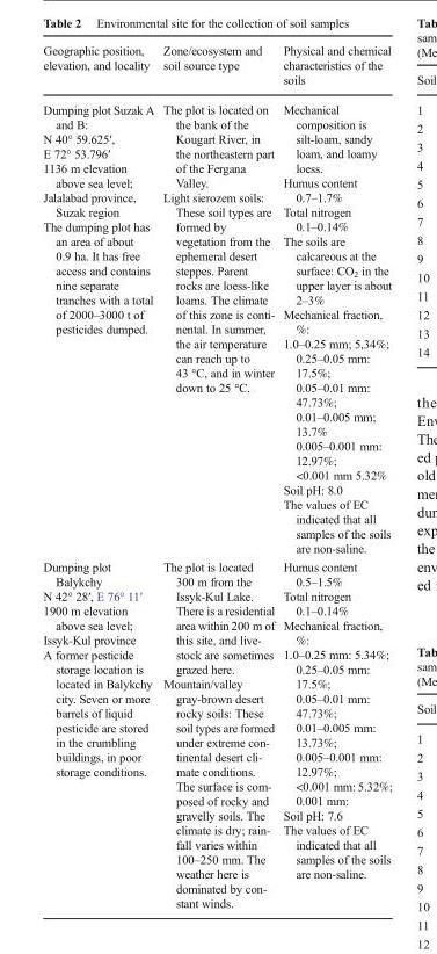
<table><thead><tr><td>Geographic position, elevation, and locality</td><td>Zone/ecosystem and soil source type</td><td>Physical and chemical characteristics of the soils</td></tr></thead><tbody><tr><td>Dumping plot Suzak A and B: N 40° 59.625′, E 72° 53.796′ 1136 m elevation above sea level; Jalalabad province, Suzak region The dumping plot has an area of about 0.9 ha. It has free access and contains nine separate tranches with a total of 2000–3000 t of pesticides dumped.</td><td>The plot is located on the bank of the Kougart River, in the northeastern part of the Fergana Valley. Light sierozem soils: These soil types are formed by vegetation from the ephemeral desert steppes. Parent rocks are loess-like loams. The climate of this zone is conti- nental. In summer, the air temperature can reach up to 43 °С, and in winter down to 25 °С.</td><td>Mechanical composition is silt-loam, sandy loam, and loamy loess. Humus content 0.7–1.7% Total nitrogen 0.1–0.14% The soils are calcareous at the surface: CO<sub>2</sub> in the upper layer is about 2–3% Mechanical fraction, %: 1.0–0.25 mm; 5,34%; 0.25–0.05 mm: 17.5%; 0.05–0.01 mm: 47.73%; 0.01–0.005 mm; 13.7% 0.005–0.001 mm: 12.97%; &lt;0.001 mm 5.32% Soil pH: 8.0 The values of EC indicated that all samples of the soils are non-saline.</td></tr><tr><td>Dumping plot Balykchy N 42° 28′, E 76° 11′ 1900 m elevation above sea level; Issyk-Kul province A former pesticide storage location is located in Balykchy city. Seven or more barrels of liquid pesticide are stored in the crumbling buildings, in poor storage conditions.</td><td>The plot is located 300 m from the Issyk-Kul Lake. There is a residential area within 200 m of this site, and live- stock are sometimes grazed here. Mountain/valley gray-brown desert rocky soils: These soil types are formed under extreme con- tinental desert cli- mate conditions. The surface is com- posed of rocky and gravelly soils. The climate is dry; rain- fall varies within 100–250 mm. The weather here is dominated by con- stant winds.</td><td>Humus content 0.5–1.5% Total nitrogen 0.1–0.14% Mechanical fraction, %: 1.0–0.25 mm: 5.34%; 0.25–0.05 mm: 17.5%; 0.05–0.01 mm: 47.73%; 0.01–0.005 mm: 13.73%; 0.005–0.001 mm: 12.97%; &lt;0.001 mm: 5.32%; 0.001 mm: Soil pH: 7.6 The values of EC indicated that all samples of the soils are non-saline.</td></tr></tbody></table>